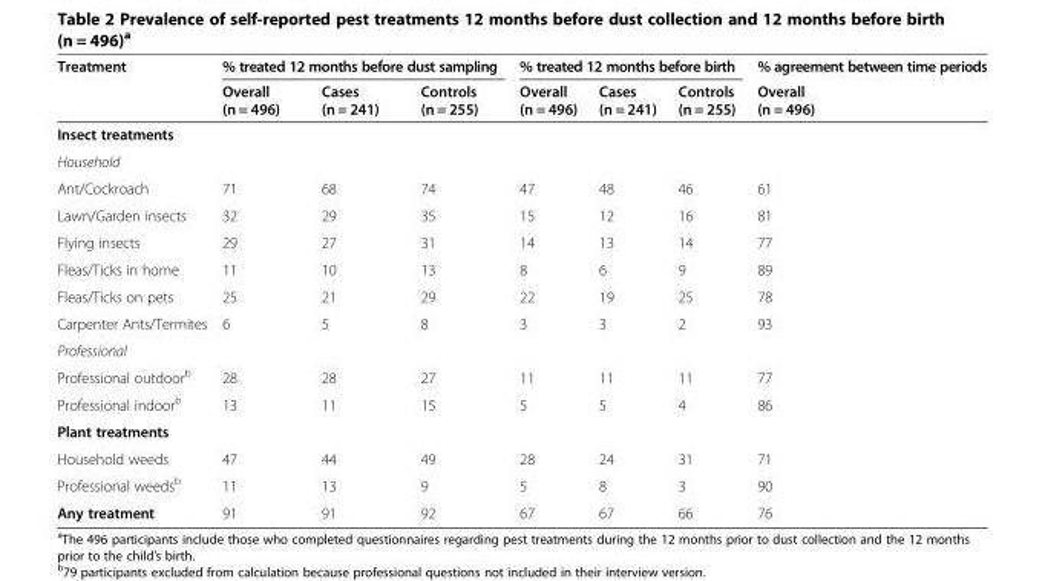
<table><thead><tr><td rowspan="2">Treatment</td><td colspan="3">% treated 12 months before dust sampling</td><td colspan="3">% treated 12 months before birth</td><td rowspan="2">% agreement between time periods Overall (n = 496)</td></tr><tr><td>Overall (n = 496)</td><td>Cases (n = 241)</td><td>Controls (n = 255)</td><td>Overall (n = 496)</td><td>Cases (n = 241)</td><td>Controls (n = 255)</td></tr></thead><tbody><tr><td colspan="8">Insect treatments</td></tr><tr><td colspan="8">Household</td></tr><tr><td>Ant/Cockroach</td><td>71</td><td>68</td><td>74</td><td>47</td><td>48</td><td>46</td><td>61</td></tr><tr><td>Lawn/Garden insects</td><td>32</td><td>29</td><td>35</td><td>15</td><td>12</td><td>16</td><td>81</td></tr><tr><td>Flying insects</td><td>29</td><td>27</td><td>31</td><td>14</td><td>13</td><td>14</td><td>77</td></tr><tr><td>Fleas/Ticks in home</td><td>11</td><td>10</td><td>13</td><td>8</td><td>6</td><td>9</td><td>89</td></tr><tr><td>Fleas/Ticks on pets</td><td>25</td><td>21</td><td>29</td><td>22</td><td>19</td><td>25</td><td>78</td></tr><tr><td>Carpenter Ants/Termites</td><td>6</td><td>5</td><td>8</td><td>3</td><td>3</td><td>2</td><td>93</td></tr><tr><td colspan="8">Professional</td></tr><tr><td>Professional outdoor<sup>b</sup></td><td>28</td><td>28</td><td>27</td><td>11</td><td>11</td><td>11</td><td>77</td></tr><tr><td>Professional indoor<sup>b</sup></td><td>13</td><td>11</td><td>15</td><td>5</td><td>5</td><td>4</td><td>86</td></tr><tr><td colspan="8">Plant treatments</td></tr><tr><td>Household weeds</td><td>47</td><td>44</td><td>49</td><td>28</td><td>24</td><td>31</td><td>71</td></tr><tr><td>Professional weeds<sup>b</sup></td><td>11</td><td>13</td><td>9</td><td>5</td><td>8</td><td>3</td><td>90</td></tr><tr><td>Any treatment</td><td>91</td><td>91</td><td>92</td><td>67</td><td>67</td><td>66</td><td>76</td></tr></tbody></table>